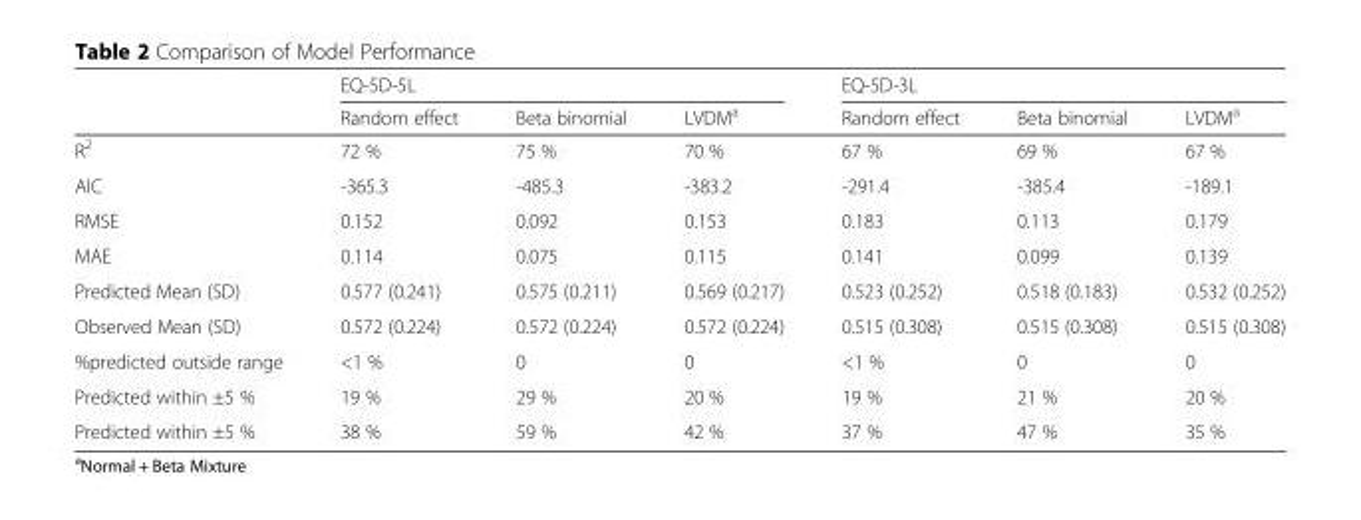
<table><thead><tr><td rowspan="2"></td><td colspan="3">EQ-5D-5L</td><td colspan="3">EQ-5D-3L</td></tr><tr><td>Random effect</td><td>Beta binomial</td><td>LVDM<sup>a</sup></td><td>Random effect</td><td>Beta binomial</td><td>LVDM<sup>a</sup></td></tr></thead><tbody><tr><td>R<sup>2</sup></td><td>72 %</td><td>75 %</td><td>70 %</td><td>67 %</td><td>69 %</td><td>67 %</td></tr><tr><td>AIC</td><td>-365.3</td><td>-485.3</td><td>-383.2</td><td>-291.4</td><td>-385.4</td><td>-189.1</td></tr><tr><td>RMSE</td><td>0.152</td><td>0.092</td><td>0.153</td><td>0.183</td><td>0.113</td><td>0.179</td></tr><tr><td>MAE</td><td>0.114</td><td>0.075</td><td>0.115</td><td>0.141</td><td>0.099</td><td>0.139</td></tr><tr><td>Predicted Mean (SD)</td><td>0.577 (0.241)</td><td>0.575 (0.211)</td><td>0.569 (0.217)</td><td>0.523 (0.252)</td><td>0.518 (0.183)</td><td>0.532 (0.252)</td></tr><tr><td>Observed Mean (SD)</td><td>0.572 (0.224)</td><td>0.572 (0.224)</td><td>0.572 (0.224)</td><td>0.515 (0.308)</td><td>0.515 (0.308)</td><td>0.515 (0.308)</td></tr><tr><td>%predicted outside range</td><td>&lt;1 %</td><td>0</td><td>0</td><td>&lt;1 %</td><td>0</td><td>0</td></tr><tr><td>Predicted within ±5 %</td><td>19 %</td><td>29 %</td><td>20 %</td><td>19 %</td><td>21 %</td><td>20 %</td></tr><tr><td>Predicted within ±5 %</td><td>38 %</td><td>59 %</td><td>42 %</td><td>37 %</td><td>47 %</td><td>35 %</td></tr></tbody></table>